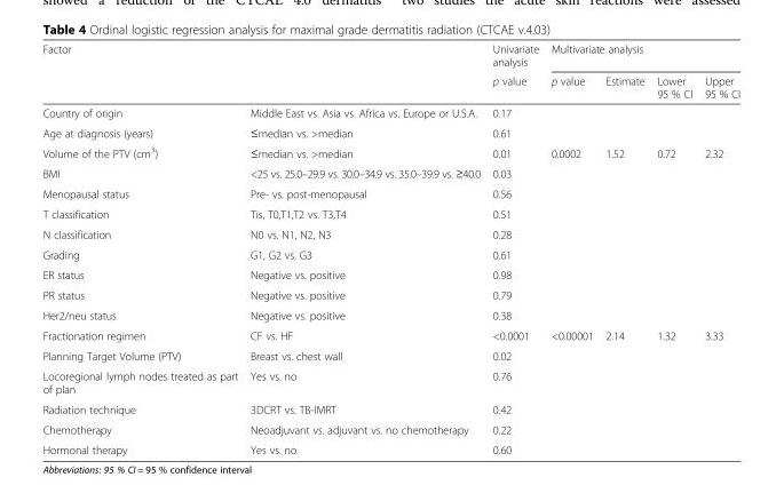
<table><thead><tr><td rowspan="2">Factor</td><td rowspan="2"></td><td rowspan="2">Univariate analysis p value</td><td colspan="4">Multivariate analysis</td></tr><tr><td>p value</td><td>Estimate</td><td>Lower 95 % CI</td><td>Upper 95 % CI</td></tr></thead><tbody><tr><td>Country of origin</td><td>Middle East vs. Asia vs. Africa vs. Europe or U.S.A.</td><td>0.17</td><td></td><td></td><td></td><td></td></tr><tr><td>Age at diagnosis (years)</td><td>≤median vs. &gt;median</td><td>0.61</td><td></td><td></td><td></td><td></td></tr><tr><td>Volume of the PTV (cm<sup>3</sup>)</td><td>≤median vs. &gt;median</td><td>0.01</td><td>0.0002</td><td>1.52</td><td>0.72</td><td>2.32</td></tr><tr><td>BMI</td><td>&lt;25 vs. 25.0–29.9 vs. 30.0–34.9 vs. 35.0–39.9 vs. ≥40.0</td><td>0.03</td><td></td><td></td><td></td><td></td></tr><tr><td>Menopausal status</td><td>Pre- vs. post-menopausal</td><td>0.56</td><td></td><td></td><td></td><td></td></tr><tr><td>T classification</td><td>Tis, T0,T1,T2 vs. T3,T4</td><td>0.51</td><td></td><td></td><td></td><td></td></tr><tr><td>N classification</td><td>N0 vs. N1, N2, N3</td><td>0.28</td><td></td><td></td><td></td><td></td></tr><tr><td>Grading</td><td>G1, G2 vs. G3</td><td>0.61</td><td></td><td></td><td></td><td></td></tr><tr><td>ER status</td><td>Negative vs. positive</td><td>0.98</td><td></td><td></td><td></td><td></td></tr><tr><td>PR status</td><td>Negative vs. positive</td><td>0.79</td><td></td><td></td><td></td><td></td></tr><tr><td>Her2/neu status</td><td>Negative vs. positive</td><td>0.38</td><td></td><td></td><td></td><td></td></tr><tr><td>Fractionation regimen</td><td>CF vs. HF</td><td>&lt;0.0001</td><td>&lt;0.00001</td><td>2.14</td><td>1.32</td><td>3.33</td></tr><tr><td>Planning Target Volume (PTV)</td><td>Breast vs. chest wall</td><td>0.02</td><td></td><td></td><td></td><td></td></tr><tr><td>Locoregional lymph nodes treated as part of plan</td><td>Yes vs. no</td><td>0.76</td><td></td><td></td><td></td><td></td></tr><tr><td>Radiation technique</td><td>3DCRT vs. TB-IMRT</td><td>0.42</td><td></td><td></td><td></td><td></td></tr><tr><td>Chemotherapy</td><td>Neoadjuvant vs. adjuvant vs. no chemotherapy</td><td>0.22</td><td></td><td></td><td></td><td></td></tr><tr><td>Hormonal therapy</td><td>Yes vs. no</td><td>0.60</td><td></td><td></td><td></td><td></td></tr></tbody></table>